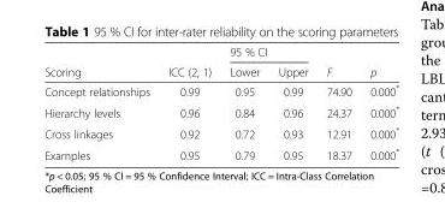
<table><thead><tr><td rowspan="2">Scoring</td><td rowspan="2">ICC (2, 1)</td><td colspan="2">95 % CI</td><td rowspan="2">F</td><td rowspan="2">p</td></tr><tr><td>Lower</td><td>Upper</td></tr></thead><tbody><tr><td>Concept relationships</td><td>0.99</td><td>0.95</td><td>0.99</td><td>74.90</td><td>0.000*</td></tr><tr><td>Hierarchy levels</td><td>0.96</td><td>0.84</td><td>0.96</td><td>24.37</td><td>0.000*</td></tr><tr><td>Cross linkages</td><td>0.92</td><td>0.72</td><td>0.93</td><td>12.91</td><td>0.000*</td></tr><tr><td>Examples</td><td>0.95</td><td>0.79</td><td>0.95</td><td>18.37</td><td>0.000*</td></tr></tbody></table>